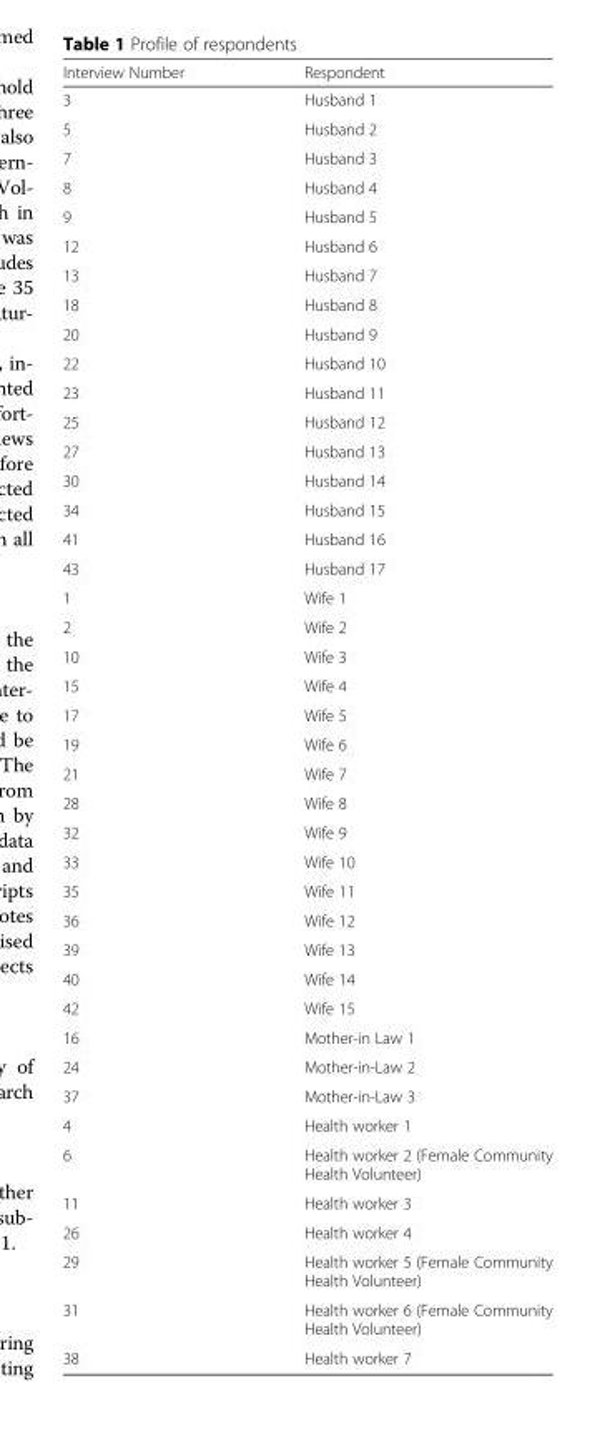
<table><thead><tr><td>Interview Number</td><td>Respondent</td></tr></thead><tbody><tr><td>3</td><td>Husband 1</td></tr><tr><td>5</td><td>Husband 2</td></tr><tr><td>7</td><td>Husband 3</td></tr><tr><td>8</td><td>Husband 4</td></tr><tr><td>9</td><td>Husband 5</td></tr><tr><td>12</td><td>Husband 6</td></tr><tr><td>13</td><td>Husband 7</td></tr><tr><td>18</td><td>Husband 8</td></tr><tr><td>20</td><td>Husband 9</td></tr><tr><td>22</td><td>Husband 10</td></tr><tr><td>23</td><td>Husband 11</td></tr><tr><td>25</td><td>Husband 12</td></tr><tr><td>27</td><td>Husband 13</td></tr><tr><td>30</td><td>Husband 14</td></tr><tr><td>34</td><td>Husband 15</td></tr><tr><td>41</td><td>Husband 16</td></tr><tr><td>43</td><td>Husband 17</td></tr><tr><td>1</td><td>Wife 1</td></tr><tr><td>2</td><td>Wife 2</td></tr><tr><td>10</td><td>Wife 3</td></tr><tr><td>15</td><td>Wife 4</td></tr><tr><td>17</td><td>Wife 5</td></tr><tr><td>19</td><td>Wife 6</td></tr><tr><td>21</td><td>Wife 7</td></tr><tr><td>28</td><td>Wife 8</td></tr><tr><td>32</td><td>Wife 9</td></tr><tr><td>33</td><td>Wife 10</td></tr><tr><td>35</td><td>Wife 11</td></tr><tr><td>36</td><td>Wife 12</td></tr><tr><td>39</td><td>Wife 13</td></tr><tr><td>40</td><td>Wife 14</td></tr><tr><td>42</td><td>Wife 15</td></tr><tr><td>16</td><td>Mother-in Law 1</td></tr><tr><td>24</td><td>Mother-in-Law 2</td></tr><tr><td>37</td><td>Mother-in-Law 3</td></tr><tr><td>4</td><td>Health worker 1</td></tr><tr><td>6</td><td>Health worker 2 (Female Community Health Volunteer)</td></tr><tr><td>11</td><td>Health worker 3</td></tr><tr><td>26</td><td>Health worker 4</td></tr><tr><td>29</td><td>Health worker 5 (Female Community Health Volunteer)</td></tr><tr><td>31</td><td>Health worker 6 (Female Community Health Volunteer)</td></tr><tr><td>38</td><td>Health worker 7</td></tr></tbody></table>